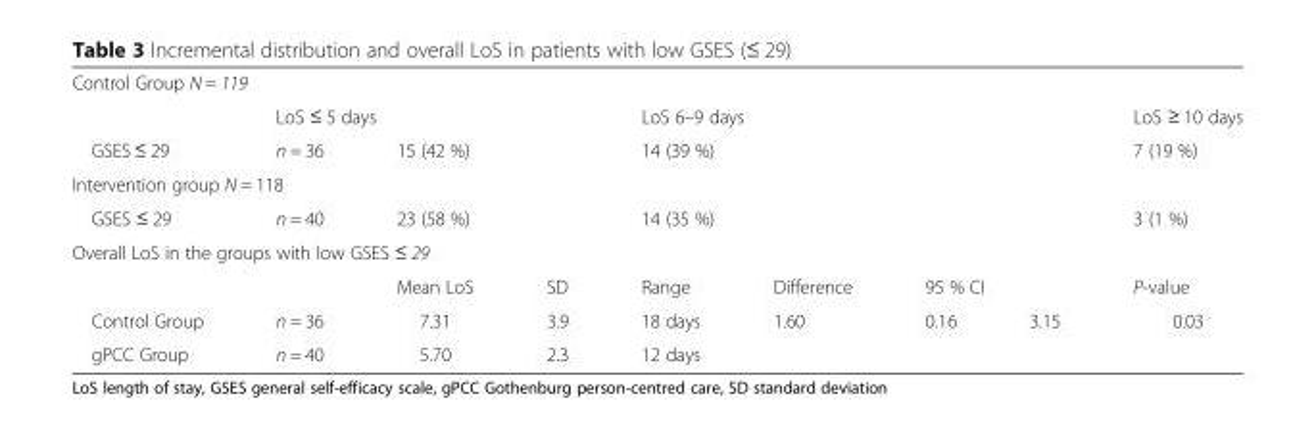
<table><tbody><tr><td colspan="9">Control Group N = 119</td></tr><tr><td></td><td colspan="3">LoS ≤ 5 days</td><td colspan="4">LoS 6–9 days</td><td>LoS ≥ 10 days</td></tr><tr><td>GSES ≤ 29</td><td>n = 36</td><td colspan="2">15 (42 %)</td><td colspan="4">14 (39 %)</td><td>7 (19 %)</td></tr><tr><td colspan="9">Intervention group N = 118</td></tr><tr><td>GSES ≤ 29</td><td>n = 40</td><td colspan="2">23 (58 %)</td><td colspan="4">14 (35 %)</td><td>3 (1 %)</td></tr><tr><td colspan="9">Overall LoS in the groups with low GSES ≤ 29</td></tr><tr><td colspan="2"></td><td>Mean LoS</td><td>SD</td><td>Range</td><td>Difference</td><td colspan="2">95 % CI</td><td>P-value</td></tr><tr><td>Control Group</td><td>n = 36</td><td>7.31</td><td>3.9</td><td>18 days</td><td rowspan="2">1.60</td><td rowspan="2">0.16</td><td rowspan="2">3.15</td><td rowspan="2">0.03</td></tr><tr><td>gPCC Group</td><td>n = 40</td><td>5.70</td><td>2.3</td><td>12 days</td></tr></tbody></table>